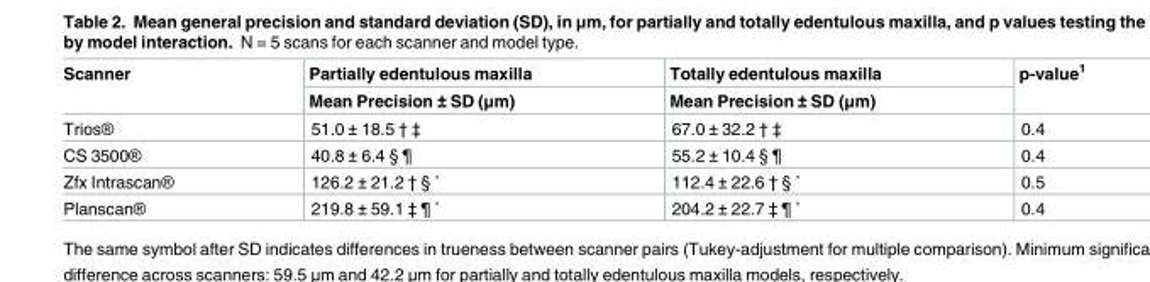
<table><thead><tr><td rowspan="2">Scanner</td><td rowspan="2">Partially edentulous maxilla Mean Precision ± SD (μm)</td><td rowspan="2">Totally edentulous maxilla Mean Precision ± SD (μm)</td><td rowspan="2">p-value<sup>1</sup></td></tr><tr></tr></thead><tbody><tr><td>Trios®</td><td>51.0 ± 18.5 † ‡</td><td>67.0 ± 32.2 † ‡</td><td>0.4</td></tr><tr><td>CS 3500®</td><td>40.8 ± 6.4 § ¶</td><td>55.2 ± 10.4 § ¶</td><td>0.4</td></tr><tr><td>Zfx Intrascan®</td><td>126.2 ± 21.2 † § ˚</td><td>112.4 ± 22.6 † § ˚</td><td>0.5</td></tr><tr><td>Planscan®</td><td>219.8 ± 59.1 ‡ ¶ ˚</td><td>204.2 ± 22.7 ‡ ¶ ˚</td><td>0.4</td></tr></tbody></table>